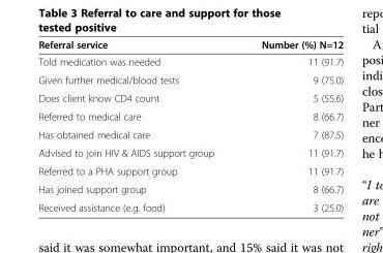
<table><thead><tr><td>Referral service</td><td>Number (%) N=12</td></tr></thead><tbody><tr><td>Told medication was needed</td><td>11 (91.7)</td></tr><tr><td>Given further medical/blood tests</td><td>9 (75.0)</td></tr><tr><td>Does client know CD4 count</td><td>5 (55.6)</td></tr><tr><td>Referred to medical care</td><td>8 (66.7)</td></tr><tr><td>Has obtained medical care</td><td>7 (87.5)</td></tr><tr><td>Advised to join HIV &amp; AIDS support group</td><td>11 (91.7)</td></tr><tr><td>Referred to a PHA support group</td><td>11 (91.7)</td></tr><tr><td>Has joined support group</td><td>8 (66.7)</td></tr><tr><td>Received assistance (e.g. food)</td><td>3 (25.0)</td></tr></tbody></table>